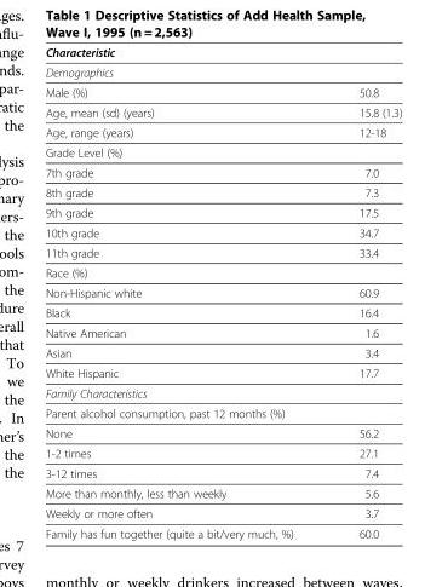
<table><thead><tr><td rowspan="2" colspan="2">Characteristic Demographics</td></tr><tr></tr><tr><td>Male (%)</td><td>50.8</td></tr></thead><tbody><tr><td>Age, mean (sd) (years)</td><td>15.8 (1.3)</td></tr><tr><td>Age, range (years)</td><td>12-18</td></tr><tr><td colspan="2">Grade Level (%)</td></tr><tr><td>7th grade</td><td>7.0</td></tr><tr><td>8th grade</td><td>7.3</td></tr><tr><td>9th grade</td><td>17.5</td></tr><tr><td>10th grade</td><td>34.7</td></tr><tr><td>11th grade</td><td>33.4</td></tr><tr><td colspan="2">Race (%)</td></tr><tr><td>Non-Hispanic white</td><td>60.9</td></tr><tr><td>Black</td><td>16.4</td></tr><tr><td>Native American</td><td>1.6</td></tr><tr><td>Asian</td><td>3.4</td></tr><tr><td>White Hispanic</td><td>17.7</td></tr><tr><td colspan="2">Family Characteristics</td></tr><tr><td colspan="2">Parent alcohol consumption, past 12 months (%)</td></tr><tr><td>None</td><td>56.2</td></tr><tr><td>1-2 times</td><td>27.1</td></tr><tr><td>3-12 times</td><td>7.4</td></tr><tr><td>More than monthly, less than weekly</td><td>5.6</td></tr><tr><td>Weekly or more often</td><td>3.7</td></tr><tr><td>Family has fun together (quite a bit/very much, %)</td><td>60.0</td></tr></tbody></table>